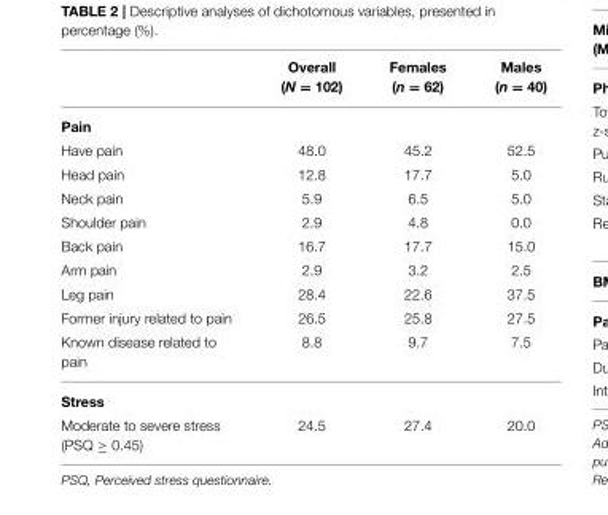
<table><thead><tr><td></td><td>Overall (N = 102)</td><td>Females (n = 62)</td><td>Males (n = 40)</td></tr></thead><tbody><tr><td colspan="4">Pain</td></tr><tr><td>Have pain</td><td>48.0</td><td>45.2</td><td>52.5</td></tr><tr><td>Head pain</td><td>12.8</td><td>17.7</td><td>5.0</td></tr><tr><td>Neck pain</td><td>5.9</td><td>6.5</td><td>5.0</td></tr><tr><td>Shoulder pain</td><td>2.9</td><td>4.8</td><td>0.0</td></tr><tr><td>Back pain</td><td>16.7</td><td>17.7</td><td>15.0</td></tr><tr><td>Arm pain</td><td>2.9</td><td>3.2</td><td>2.5</td></tr><tr><td>Leg pain</td><td>28.4</td><td>22.6</td><td>37.5</td></tr><tr><td>Former injury related to pain</td><td>26.5</td><td>25.8</td><td>27.5</td></tr><tr><td>Known disease related to pain</td><td>8.8</td><td>9.7</td><td>7.5</td></tr><tr><td colspan="4">Stress</td></tr><tr><td>Moderate to severe stress (PSQ ≥ 0.45)</td><td>24.5</td><td>27.4</td><td>20.0</td></tr></tbody></table>